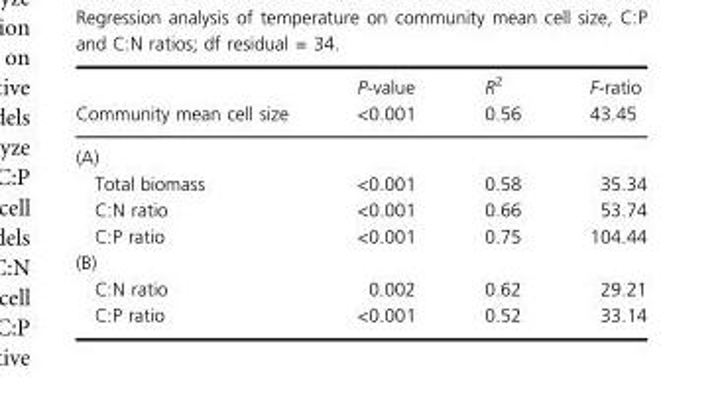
<table><thead><tr><td rowspan="2">Community mean cell size</td><td rowspan="2">P-value &lt;0.001</td><td rowspan="2">R<sup>2</sup> 0.56</td><td rowspan="2">F-ratio 43.45</td></tr><tr></tr></thead><tbody><tr><td colspan="4">(A)</td></tr><tr><td>Total biomass</td><td>&lt;0.001</td><td>0.58</td><td>35.34</td></tr><tr><td>C:N ratio</td><td>&lt;0.001</td><td>0.66</td><td>53.74</td></tr><tr><td>C:P ratio</td><td>&lt;0.001</td><td>0.75</td><td>104.44</td></tr><tr><td colspan="4">(B)</td></tr><tr><td>C:N ratio</td><td>0.002</td><td>0.62</td><td>29.21</td></tr><tr><td>C:P ratio</td><td>&lt;0.001</td><td>0.52</td><td>33.14</td></tr></tbody></table>